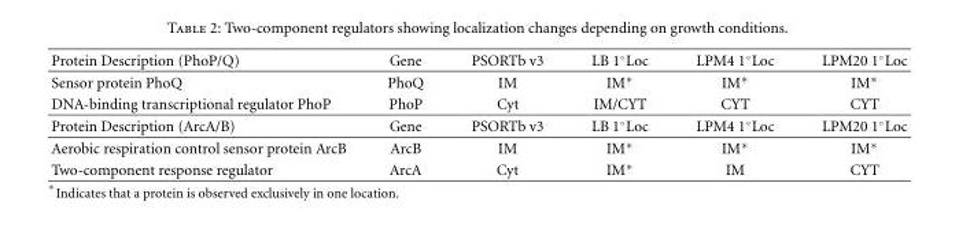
<table><thead><tr><td>Protein Description (PhoP/Q)</td><td>Gene</td><td>PSORTb v3</td><td>LB 1◦Loc</td><td>LPM4 1◦Loc</td><td>LPM20 1◦Loc</td></tr></thead><tbody><tr><td>Sensor protein PhoQ</td><td>PhoQ</td><td>IM</td><td>IM∗</td><td>IM∗</td><td>IM∗</td></tr><tr><td>DNA-binding transcriptional regulator PhoP</td><td>PhoP</td><td>Cyt</td><td>IM/CYT</td><td>CYT</td><td>CYT</td></tr><tr><td>Protein Description (ArcA/B)</td><td>Gene</td><td>PSORTb v3</td><td>LB 1◦Loc</td><td>LPM4 1◦Loc</td><td>LPM20 1◦Loc</td></tr><tr><td>Aerobic respiration control sensor protein ArcB</td><td>ArcB</td><td>IM</td><td>IM∗</td><td>IM∗</td><td>IM∗</td></tr><tr><td>Two-component response regulator</td><td>ArcA</td><td>Cyt</td><td>IM∗</td><td>IM</td><td>CYT</td></tr></tbody></table>